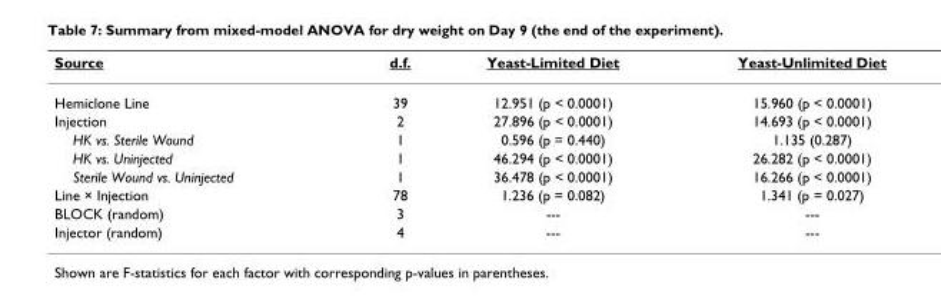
<table><thead><tr><td>Source</td><td>d.f.</td><td>Yeast-Limited Diet</td><td>Yeast-Unlimited Diet</td></tr></thead><tbody><tr><td>Hemiclone Line</td><td>39</td><td>12.951 (p &lt; 0.0001)</td><td>15.960 (p &lt; 0.0001)</td></tr><tr><td>Injection</td><td>2</td><td>27.896 (p &lt; 0.0001)</td><td>14.693 (p &lt; 0.0001)</td></tr><tr><td>HK vs. Sterile Wound</td><td>1</td><td>0.596 (p = 0.440)</td><td>1.135 (0.287)</td></tr><tr><td>HK vs. Uninjected</td><td>1</td><td>46.294 (p &lt; 0.0001)</td><td>26.282 (p &lt; 0.0001)</td></tr><tr><td>Sterile Wound vs. Uninjected</td><td>1</td><td>36.478 (p &lt; 0.0001)</td><td>16.266 (p &lt; 0.0001)</td></tr><tr><td>Line × Injection</td><td>78</td><td>1.236 (p = 0.082)</td><td>1.341 (p = 0.027)</td></tr><tr><td>BLOCK (random)</td><td>3</td><td>---</td><td>---</td></tr><tr><td>Injector (random)</td><td>4</td><td>---</td><td>---</td></tr></tbody></table>